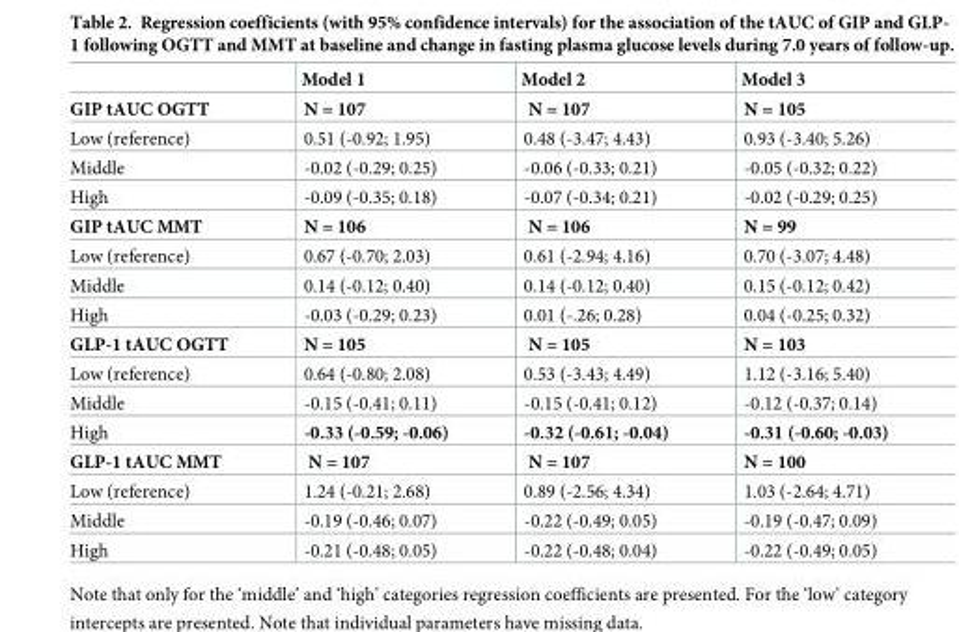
<table><thead><tr><td></td><td>Model 1</td><td>Model 2</td><td>Model 3</td></tr></thead><tbody><tr><td>GIP tAUC OGTT</td><td>N = 107</td><td>N = 107</td><td>N = 105</td></tr><tr><td>Low (reference)</td><td>0.51 (-0.92; 1.95)</td><td>0.48 (-3.47; 4.43)</td><td>0.93 (-3.40; 5.26)</td></tr><tr><td>Middle</td><td>-0.02 (-0.29; 0.25)</td><td>-0.06 (-0.33; 0.21)</td><td>-0.05 (-0.32; 0.22)</td></tr><tr><td>High</td><td>-0.09 (-0.35; 0.18)</td><td>-0.07 (-0.34; 0.21)</td><td>-0.02 (-0.29; 0.25)</td></tr><tr><td>GIP tAUC MMT</td><td>N = 106</td><td>N = 106</td><td>N = 99</td></tr><tr><td>Low (reference)</td><td>0.67 (-0.70; 2.03)</td><td>0.61 (-2.94; 4.16)</td><td>0.70 (-3.07; 4.48)</td></tr><tr><td>Middle</td><td>0.14 (-0.12; 0.40)</td><td>0.14 (-0.12; 0.40)</td><td>0.15 (-0.12; 0.42)</td></tr><tr><td>High</td><td>-0.03 (-0.29; 0.23)</td><td>0.01 (-.26; 0.28)</td><td>0.04 (-0.25; 0.32)</td></tr><tr><td>GLP-1 tAUC OGTT</td><td>N = 105</td><td>N = 105</td><td>N = 103</td></tr><tr><td>Low (reference)</td><td>0.64 (-0.80; 2.08)</td><td>0.53 (-3.43; 4.49)</td><td>1.12 (-3.16; 5.40)</td></tr><tr><td>Middle</td><td>-0.15 (-0.41; 0.11)</td><td>-0.15 (-0.41; 0.12)</td><td>-0.12 (-0.37; 0.14)</td></tr><tr><td>High</td><td>-0.33 (-0.59; -0.06)</td><td>-0.32 (-0.61; -0.04)</td><td>-0.31 (-0.60; -0.03)</td></tr><tr><td>GLP-1 tAUC MMT</td><td>N = 107</td><td>N = 107</td><td>N = 100</td></tr><tr><td>Low (reference)</td><td>1.24 (-0.21; 2.68)</td><td>0.89 (-2.56; 4.34)</td><td>1.03 (-2.64; 4.71)</td></tr><tr><td>Middle</td><td>-0.19 (-0.46; 0.07)</td><td>-0.22 (-0.49; 0.05)</td><td>-0.19 (-0.47; 0.09)</td></tr><tr><td>High</td><td>-0.21 (-0.48; 0.05)</td><td>-0.22 (-0.48; 0.04)</td><td>-0.22 (-0.49; 0.05)</td></tr></tbody></table>